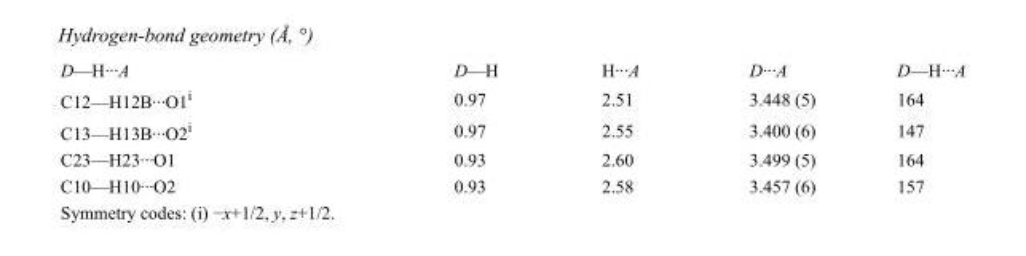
<table><tbody><tr><td>D—H···A</td><td>D—H</td><td>H···A</td><td>D···A</td><td>D—H···A</td></tr><tr><td>C12—H12B···O1<sup>i</sup></td><td>0.97</td><td>2.51</td><td>3.448 (5)</td><td>164</td></tr><tr><td>C13—H13B···O2<sup>i</sup></td><td>0.97</td><td>2.55</td><td>3.400 (6)</td><td>147</td></tr><tr><td>C23—H23···O1</td><td>0.93</td><td>2.60</td><td>3.499 (5)</td><td>164</td></tr><tr><td>C10—H10···O2</td><td>0.93</td><td>2.58</td><td>3.457 (6)</td><td>157</td></tr></tbody></table>